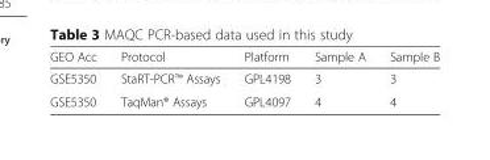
<table><thead><tr><td>GEO Acc</td><td>Protocol</td><td>Platform</td><td>Sample A</td><td>Sample B</td></tr></thead><tbody><tr><td>GSE5350</td><td>StaRT-PCR™ Assays</td><td>GPL4198</td><td>3</td><td>3</td></tr><tr><td>GSE5350</td><td>TaqMan® Assays</td><td>GPL4097</td><td>4</td><td>4</td></tr></tbody></table>